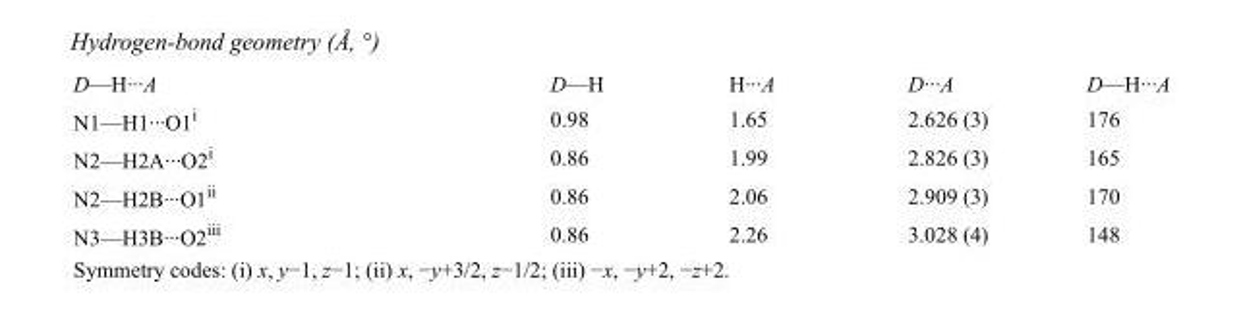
<table><tbody><tr><td>D—H···A</td><td>D—H</td><td>H···A</td><td>D···A</td><td>D—H···A</td></tr><tr><td>N1—H1···O1<sup>i</sup></td><td>0.98</td><td>1.65</td><td>2.626 (3)</td><td>176</td></tr><tr><td>N2—H2A···O2<sup>i</sup></td><td>0.86</td><td>1.99</td><td>2.826 (3)</td><td>165</td></tr><tr><td>N2—H2B···O1<sup>ii</sup></td><td>0.86</td><td>2.06</td><td>2.909 (3)</td><td>170</td></tr><tr><td>N3—H3B···O2<sup>iii</sup></td><td>0.86</td><td>2.26</td><td>3.028 (4)</td><td>148</td></tr></tbody></table>